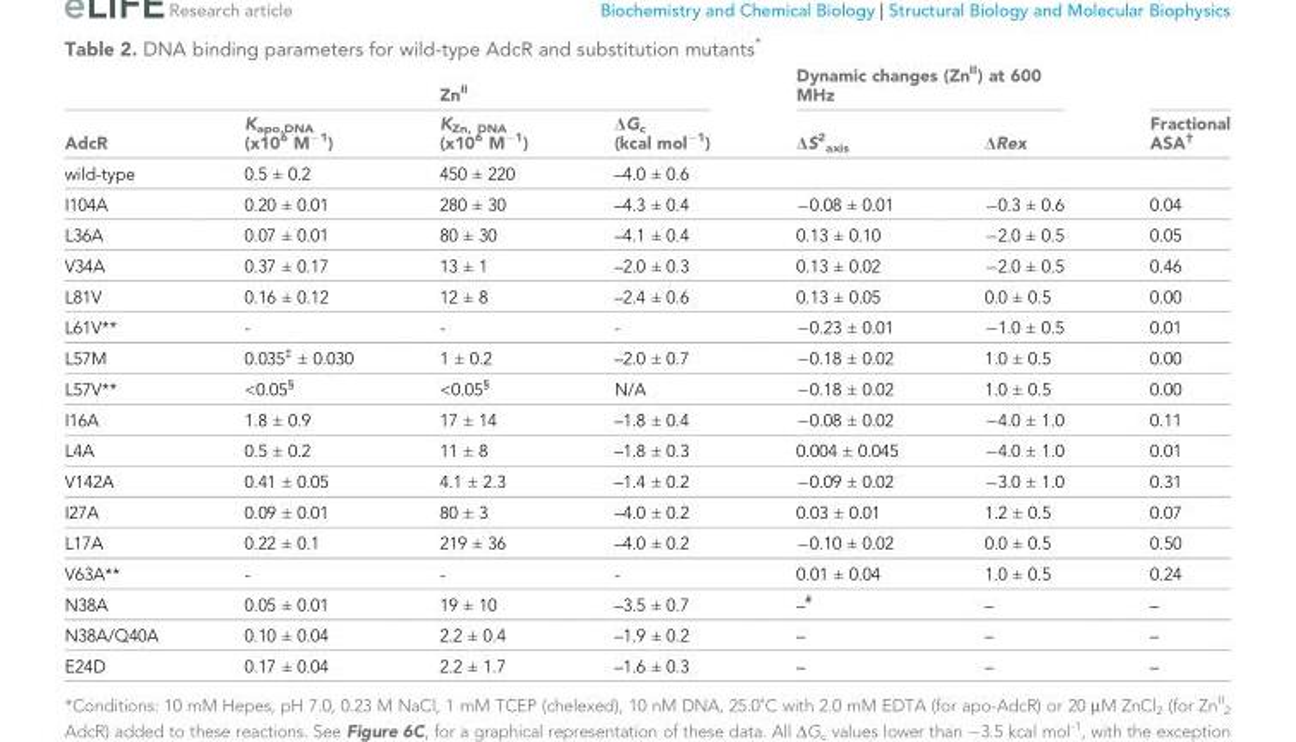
<table><thead><tr><td rowspan="2">AdcR</td><td rowspan="2">K<sub>apo,DNA</sub> (x10<sup>6</sup> M<sup>−1</sup>)</td><td colspan="2">Zn<sup>II</sup></td><td colspan="2">Dynamic changes (Zn<sup>II</sup>) at 600 MHz</td><td rowspan="2">Fractional ASA<sup>†</sup></td></tr><tr><td>K<sub>Zn, DNA</sub> (x10<sup>6</sup> M<sup>−1</sup>)</td><td>ΔG<sub>c</sub> (kcal mol<sup>−1</sup>)</td><td>ΔS<sup>2</sup> <sub>axis</sub></td><td>ΔRex</td></tr></thead><tbody><tr><td>wild-type</td><td>0.5 ± 0.2</td><td>450 ± 220</td><td>–4.0 ± 0.6</td><td></td><td></td><td></td></tr><tr><td>I104A</td><td>0.20 ± 0.01</td><td>280 ± 30</td><td>–4.3 ± 0.4</td><td>−0.08 ± 0.01</td><td>−0.3 ± 0.6</td><td>0.04</td></tr><tr><td>L36A</td><td>0.07 ± 0.01</td><td>80 ± 30</td><td>–4.1 ± 0.4</td><td>0.13 ± 0.10</td><td>−2.0 ± 0.5</td><td>0.05</td></tr><tr><td>V34A</td><td>0.37 ± 0.17</td><td>13 ± 1</td><td>–2.0 ± 0.3</td><td>0.13 ± 0.02</td><td>−2.0 ± 0.5</td><td>0.46</td></tr><tr><td>L81V</td><td>0.16 ± 0.12</td><td>12 ± 8</td><td>–2.4 ± 0.6</td><td>0.13 ± 0.05</td><td>0.0 ± 0.5</td><td>0.00</td></tr><tr><td>L61V**</td><td>-</td><td>-</td><td>-</td><td>−0.23 ± 0.01</td><td>−1.0 ± 0.5</td><td>0.01</td></tr><tr><td>L57M</td><td>0.035<sup>‡</sup> ± 0.030</td><td>1 ± 0.2</td><td>–2.0 ± 0.7</td><td>−0.18 ± 0.02</td><td>1.0 ± 0.5</td><td>0.00</td></tr><tr><td>L57V**</td><td>&lt;0.05<sup>§</sup></td><td>&lt;0.05<sup>§</sup></td><td>N/A</td><td>−0.18 ± 0.02</td><td>1.0 ± 0.5</td><td>0.00</td></tr><tr><td>I16A</td><td>1.8 ± 0.9</td><td>17 ± 14</td><td>–1.8 ± 0.4</td><td>−0.08 ± 0.02</td><td>−4.0 ± 1.0</td><td>0.11</td></tr><tr><td>L4A</td><td>0.5 ± 0.2</td><td>11 ± 8</td><td>–1.8 ± 0.3</td><td>0.004 ± 0.045</td><td>−4.0 ± 1.0</td><td>0.01</td></tr><tr><td>V142A</td><td>0.41 ± 0.05</td><td>4.1 ± 2.3</td><td>–1.4 ± 0.2</td><td>−0.09 ± 0.02</td><td>−3.0 ± 1.0</td><td>0.31</td></tr><tr><td>I27A</td><td>0.09 ± 0.01</td><td>80 ± 3</td><td>–4.0 ± 0.2</td><td>0.03 ± 0.01</td><td>1.2 ± 0.5</td><td>0.07</td></tr><tr><td>L17A</td><td>0.22 ± 0.1</td><td>219 ± 36</td><td>–4.0 ± 0.2</td><td>−0.10 ± 0.02</td><td>0.0 ± 0.5</td><td>0.50</td></tr><tr><td>V63A**</td><td>-</td><td>-</td><td>-</td><td>0.01 ± 0.04</td><td>1.0 ± 0.5</td><td>0.24</td></tr><tr><td>N38A</td><td>0.05 ± 0.01</td><td>19 ± 10</td><td>–3.5 ± 0.7</td><td>–<sup>#</sup></td><td>–</td><td>–</td></tr><tr><td>N38A/Q40A</td><td>0.10 ± 0.04</td><td>2.2 ± 0.4</td><td>–1.9 ± 0.2</td><td>–</td><td>–</td><td>–</td></tr><tr><td>E24D</td><td>0.17 ± 0.04</td><td>2.2 ± 1.7</td><td>–1.6 ± 0.3</td><td>–</td><td>–</td><td>–</td></tr></tbody></table>